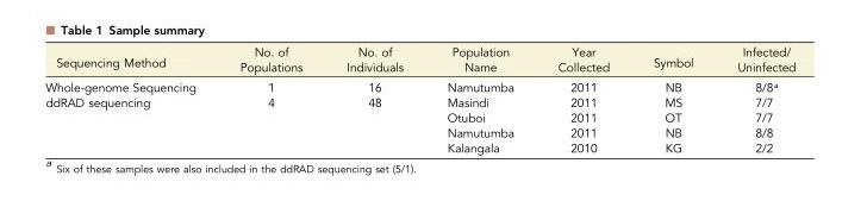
<table><thead><tr><td>Sequencing Method</td><td>No. of Populations</td><td>No. of Individuals</td><td>Population Name</td><td>Year Collected</td><td>Symbol</td><td>Infected/ Uninfected</td></tr></thead><tbody><tr><td>Whole-genome Sequencing</td><td>1</td><td>16</td><td>Namutumba</td><td>2011</td><td>NB</td><td>8/8<sup>a</sup></td></tr><tr><td rowspan="4">ddRAD sequencing</td><td rowspan="4">4</td><td rowspan="4">48</td><td>Masindi</td><td>2011</td><td>MS</td><td>7/7</td></tr><tr><td>Otuboi</td><td>2011</td><td>OT</td><td>7/7</td></tr><tr><td>Namutumba</td><td>2011</td><td>NB</td><td>8/8</td></tr><tr><td>Kalangala</td><td>2010</td><td>KG</td><td>2/2</td></tr></tbody></table>